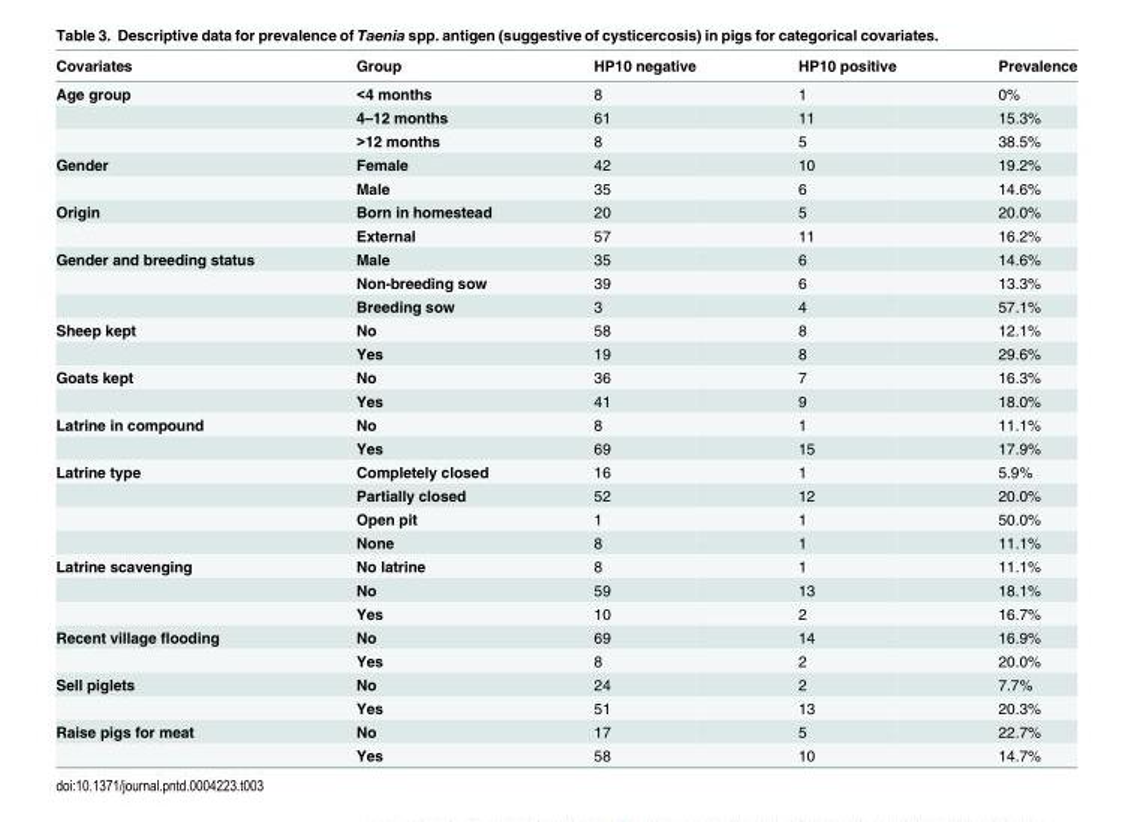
<table><thead><tr><td>Covariates</td><td>Group</td><td>HP10 negative</td><td>HP10 positive</td><td>Prevalence</td></tr></thead><tbody><tr><td rowspan="3">Age group</td><td>&lt;4 months</td><td>8</td><td>1</td><td>0%</td></tr><tr><td>4–12 months</td><td>61</td><td>11</td><td>15.3%</td></tr><tr><td>&gt;12 months</td><td>8</td><td>5</td><td>38.5%</td></tr><tr><td rowspan="2">Gender</td><td>Female</td><td>42</td><td>10</td><td>19.2%</td></tr><tr><td>Male</td><td>35</td><td>6</td><td>14.6%</td></tr><tr><td rowspan="2">Origin</td><td>Born in homestead</td><td>20</td><td>5</td><td>20.0%</td></tr><tr><td>External</td><td>57</td><td>11</td><td>16.2%</td></tr><tr><td rowspan="3">Gender and breeding status</td><td>Male</td><td>35</td><td>6</td><td>14.6%</td></tr><tr><td>Non-breeding sow</td><td>39</td><td>6</td><td>13.3%</td></tr><tr><td>Breeding sow</td><td>3</td><td>4</td><td>57.1%</td></tr><tr><td rowspan="2">Sheep kept</td><td>No</td><td>58</td><td>8</td><td>12.1%</td></tr><tr><td>Yes</td><td>19</td><td>8</td><td>29.6%</td></tr><tr><td rowspan="2">Goats kept</td><td>No</td><td>36</td><td>7</td><td>16.3%</td></tr><tr><td>Yes</td><td>41</td><td>9</td><td>18.0%</td></tr><tr><td rowspan="2">Latrine in compound</td><td>No</td><td>8</td><td>1</td><td>11.1%</td></tr><tr><td>Yes</td><td>69</td><td>15</td><td>17.9%</td></tr><tr><td rowspan="4">Latrine type</td><td>Completely closed</td><td>16</td><td>1</td><td>5.9%</td></tr><tr><td>Partially closed</td><td>52</td><td>12</td><td>20.0%</td></tr><tr><td>Open pit</td><td>1</td><td>1</td><td>50.0%</td></tr><tr><td>None</td><td>8</td><td>1</td><td>11.1%</td></tr><tr><td rowspan="3">Latrine scavenging</td><td>No latrine</td><td>8</td><td>1</td><td>11.1%</td></tr><tr><td>No</td><td>59</td><td>13</td><td>18.1%</td></tr><tr><td>Yes</td><td>10</td><td>2</td><td>16.7%</td></tr><tr><td rowspan="2">Recent village flooding</td><td>No</td><td>69</td><td>14</td><td>16.9%</td></tr><tr><td>Yes</td><td>8</td><td>2</td><td>20.0%</td></tr><tr><td rowspan="2">Sell piglets</td><td>No</td><td>24</td><td>2</td><td>7.7%</td></tr><tr><td>Yes</td><td>51</td><td>13</td><td>20.3%</td></tr><tr><td rowspan="2">Raise pigs for meat</td><td>No</td><td>17</td><td>5</td><td>22.7%</td></tr><tr><td>Yes</td><td>58</td><td>10</td><td>14.7%</td></tr></tbody></table>